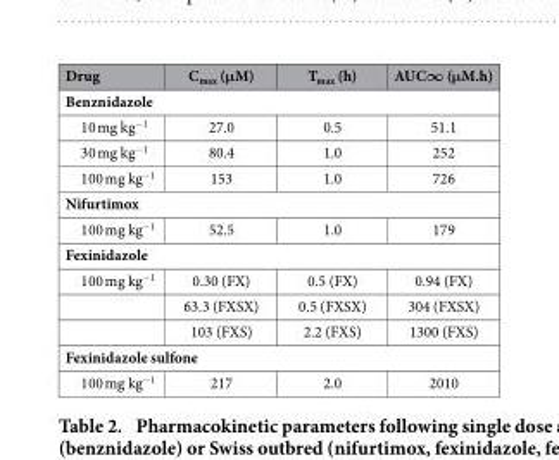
<table><thead><tr><td>Drug</td><td>C<sub>max</sub> (μM)</td><td>T<sub>max</sub> (h)</td><td>AUC∞ (μM.h)</td></tr></thead><tbody><tr><td colspan="4">Benznidazole</td></tr><tr><td>10 mg kg<sup>−1</sup></td><td>27.0</td><td>0.5</td><td>51.1</td></tr><tr><td>30 mg kg<sup>−1</sup></td><td>80.4</td><td>1.0</td><td>252</td></tr><tr><td>100 mg kg<sup>−1</sup></td><td>153</td><td>1.0</td><td>726</td></tr><tr><td colspan="4">Nifurtimox</td></tr><tr><td>100 mg kg<sup>−1</sup></td><td>52.5</td><td>1.0</td><td>179</td></tr><tr><td colspan="4">Fexinidazole</td></tr><tr><td rowspan="3">100 mg kg<sup>−1</sup></td><td>0.30 (FX)</td><td>0.5 (FX)</td><td>0.94 (FX)</td></tr><tr><td>63.3 (FXSX)</td><td>0.5 (FXSX)</td><td>304 (FXSX)</td></tr><tr><td>103 (FXS)</td><td>2.2 (FXS)</td><td>1300 (FXS)</td></tr><tr><td colspan="4">Fexinidazole sulfone</td></tr><tr><td>100 mg kg<sup>−1</sup></td><td>217</td><td>2.0</td><td>2010</td></tr></tbody></table>